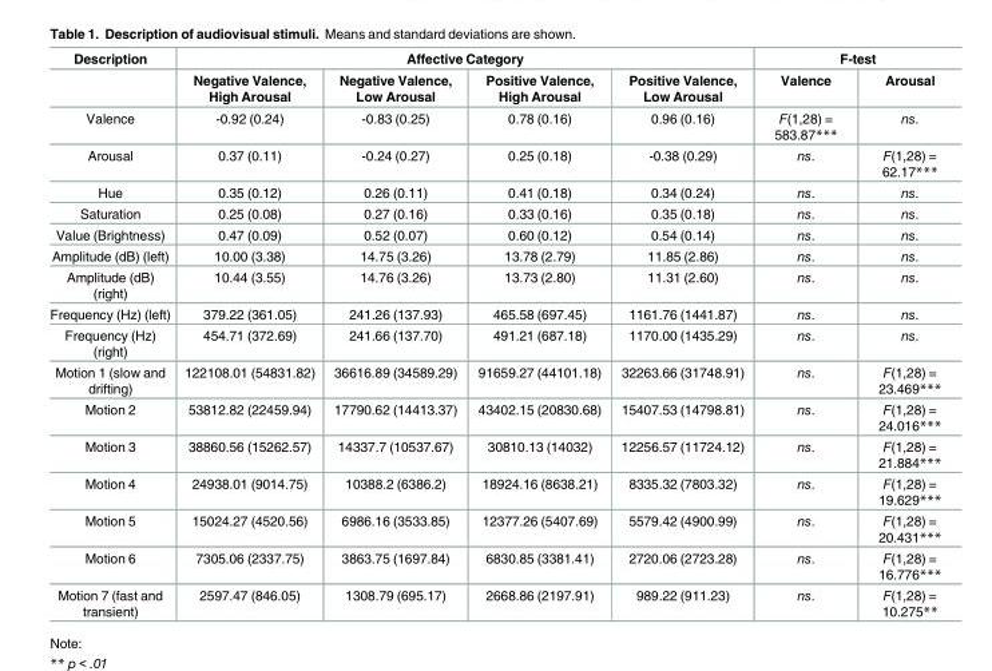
<table><thead><tr><td rowspan="2">Description</td><td colspan="4">Affective Category</td><td colspan="2">F-test</td></tr><tr><td>Negative Valence, High Arousal</td><td>Negative Valence, Low Arousal</td><td>Positive Valence, High Arousal</td><td>Positive Valence, Low Arousal</td><td>Valence</td><td>Arousal</td></tr></thead><tbody><tr><td>Valence</td><td>-0.92 (0.24)</td><td>-0.83 (0.25)</td><td>0.78 (0.16)</td><td>0.96 (0.16)</td><td>F(1,28) = 583.87***</td><td>ns.</td></tr><tr><td>Arousal</td><td>0.37 (0.11)</td><td>-0.24 (0.27)</td><td>0.25 (0.18)</td><td>-0.38 (0.29)</td><td>ns.</td><td>F(1,28) = 62.17***</td></tr><tr><td>Hue</td><td>0.35 (0.12)</td><td>0.26 (0.11)</td><td>0.41 (0.18)</td><td>0.34 (0.24)</td><td>ns.</td><td>ns.</td></tr><tr><td>Saturation</td><td>0.25 (0.08)</td><td>0.27 (0.16)</td><td>0.33 (0.16)</td><td>0.35 (0.18)</td><td>ns.</td><td>ns.</td></tr><tr><td>Value (Brightness)</td><td>0.47 (0.09)</td><td>0.52 (0.07)</td><td>0.60 (0.12)</td><td>0.54 (0.14)</td><td>ns.</td><td>ns.</td></tr><tr><td>Amplitude (dB) (left)</td><td>10.00 (3.38)</td><td>14.75 (3.26)</td><td>13.78 (2.79)</td><td>11.85 (2.86)</td><td>ns.</td><td>ns.</td></tr><tr><td>Amplitude (dB) (right)</td><td>10.44 (3.55)</td><td>14.76 (3.26)</td><td>13.73 (2.80)</td><td>11.31 (2.60)</td><td>ns.</td><td>ns.</td></tr><tr><td>Frequency (Hz) (left)</td><td>379.22 (361.05)</td><td>241.26 (137.93)</td><td>465.58 (697.45)</td><td>1161.76 (1441.87)</td><td>ns.</td><td>ns.</td></tr><tr><td>Frequency (Hz) (right)</td><td>454.71 (372.69)</td><td>241.66 (137.70)</td><td>491.21 (687.18)</td><td>1170.00 (1435.29)</td><td>ns.</td><td>ns.</td></tr><tr><td>Motion 1 (slow and drifting)</td><td>122108.01 (54831.82)</td><td>36616.89 (34589.29)</td><td>91659.27 (44101.18)</td><td>32263.66 (31748.91)</td><td>ns.</td><td>F(1,28) = 23.469***</td></tr><tr><td>Motion 2</td><td>53812.82 (22459.94)</td><td>17790.62 (14413.37)</td><td>43402.15 (20830.68)</td><td>15407.53 (14798.81)</td><td>ns.</td><td>F(1,28) = 24.016***</td></tr><tr><td>Motion 3</td><td>38860.56 (15262.57)</td><td>14337.7 (10537.67)</td><td>30810.13 (14032)</td><td>12256.57 (11724.12)</td><td>ns.</td><td>F(1,28) = 21.884***</td></tr><tr><td>Motion 4</td><td>24938.01 (9014.75)</td><td>10388.2 (6386.2)</td><td>18924.16 (8638.21)</td><td>8335.32 (7803.32)</td><td>ns.</td><td>F(1,28) = 19.629***</td></tr><tr><td>Motion 5</td><td>15024.27 (4520.56)</td><td>6986.16 (3533.85)</td><td>12377.26 (5407.69)</td><td>5579.42 (4900.99)</td><td>ns.</td><td>F(1,28) = 20.431***</td></tr><tr><td>Motion 6</td><td>7305.06 (2337.75)</td><td>3863.75 (1697.84)</td><td>6830.85 (3381.41)</td><td>2720.06 (2723.28)</td><td>ns.</td><td>F(1,28) = 16.776***</td></tr><tr><td>Motion 7 (fast and transient)</td><td>2597.47 (846.05)</td><td>1308.79 (695.17)</td><td>2668.86 (2197.91)</td><td>989.22 (911.23)</td><td>ns.</td><td>F(1,28) = 10.275**</td></tr></tbody></table>